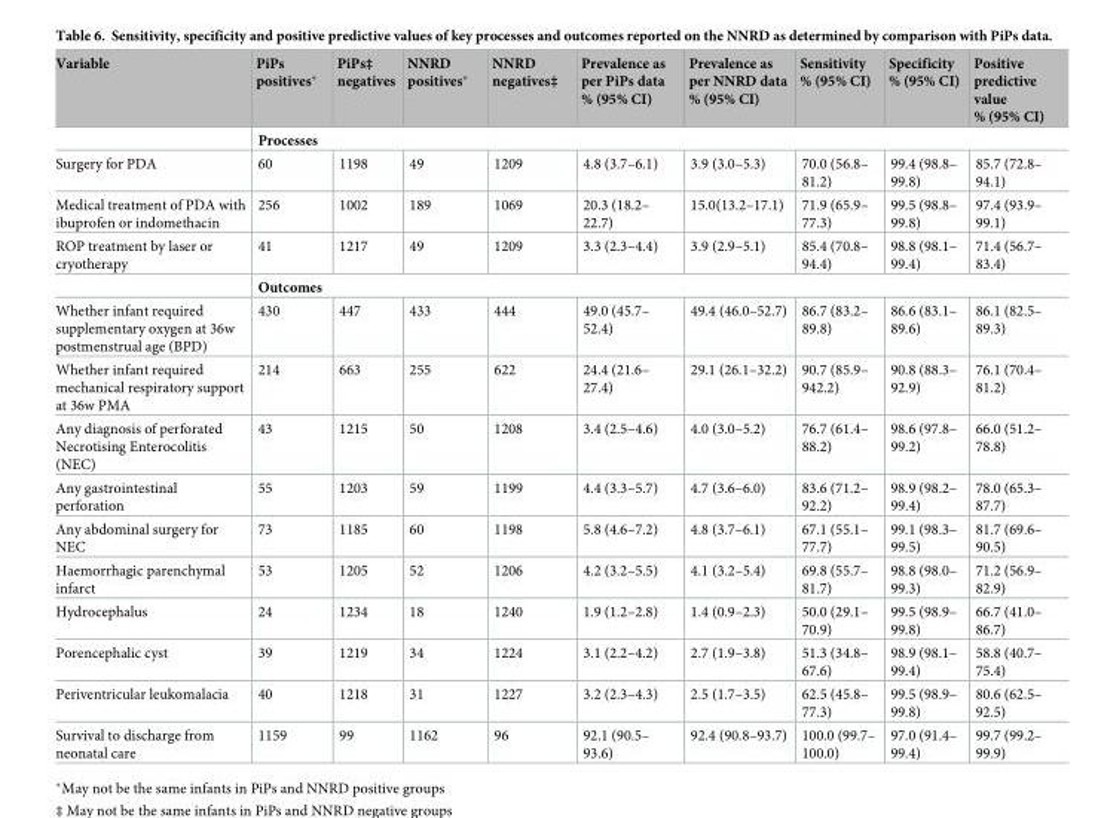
<table><thead><tr><td>Variable</td><td>PiPs positives*</td><td>PiPs‡ negatives</td><td>NNRD positives*</td><td>NNRD negatives‡</td><td>Prevalence as per PiPs data % (95% CI)</td><td>Prevalence as per NNRD data % (95% CI)</td><td>Sensitivity % (95% CI)</td><td>Specificity % (95% CI)</td><td>Positive predictive value % (95% CI)</td></tr></thead><tbody><tr><td></td><td colspan="9">Processes</td></tr><tr><td>Surgery for PDA</td><td>60</td><td>1198</td><td>49</td><td>1209</td><td>4.8 (3.7–6.1)</td><td>3.9 (3.0–5.3)</td><td>70.0 (56.8– 81.2)</td><td>99.4 (98.8– 99.8)</td><td>85.7 (72.8– 94.1)</td></tr><tr><td>Medical treatment of PDA with ibuprofen or indomethacin</td><td>256</td><td>1002</td><td>189</td><td>1069</td><td>20.3 (18.2– 22.7)</td><td>15.0(13.2–17.1)</td><td>71.9 (65.9– 77.3)</td><td>99.5 (98.8– 99.8)</td><td>97.4 (93.9– 99.1)</td></tr><tr><td rowspan="2">ROP treatment by laser or cryotherapy</td><td>41</td><td>1217</td><td>49</td><td>1209</td><td>3.3 (2.3–4.4)</td><td>3.9 (2.9–5.1)</td><td>85.4 (70.8– 94.4)</td><td>98.8 (98.1– 99.4)</td><td>71.4 (56.7– 83.4)</td></tr><tr><td colspan="9">Outcomes</td></tr><tr><td>Whether infant required supplementary oxygen at 36w postmenstrual age (BPD)</td><td>430</td><td>447</td><td>433</td><td>444</td><td>49.0 (45.7– 52.4)</td><td>49.4 (46.0–52.7)</td><td>86.7 (83.2– 89.8)</td><td>86.6 (83.1– 89.6)</td><td>86.1 (82.5– 89.3)</td></tr><tr><td>Whether infant required mechanical respiratory support at 36w PMA</td><td>214</td><td>663</td><td>255</td><td>622</td><td>24.4 (21.6– 27.4)</td><td>29.1 (26.1–32.2)</td><td>90.7 (85.9– 942.2)</td><td>90.8 (88.3– 92.9)</td><td>76.1 (70.4– 81.2)</td></tr><tr><td>Any diagnosis of perforated Necrotising Enterocolitis (NEC)</td><td>43</td><td>1215</td><td>50</td><td>1208</td><td>3.4 (2.5–4.6)</td><td>4.0 (3.0–5.2)</td><td>76.7 (61.4– 88.2)</td><td>98.6 (97.8– 99.2)</td><td>66.0 (51.2– 78.8)</td></tr><tr><td>Any gastrointestinal perforation</td><td>55</td><td>1203</td><td>59</td><td>1199</td><td>4.4 (3.3–5.7)</td><td>4.7 (3.6–6.0)</td><td>83.6 (71.2– 92.2)</td><td>98.9 (98.2– 99.4)</td><td>78.0 (65.3– 87.7)</td></tr><tr><td>Any abdominal surgery for NEC</td><td>73</td><td>1185</td><td>60</td><td>1198</td><td>5.8 (4.6–7.2)</td><td>4.8 (3.7–6.1)</td><td>67.1 (55.1– 77.7)</td><td>99.1 (98.3– 99.5)</td><td>81.7 (69.6– 90.5)</td></tr><tr><td>Haemorrhagic parenchymal infarct</td><td>53</td><td>1205</td><td>52</td><td>1206</td><td>4.2 (3.2–5.5)</td><td>4.1 (3.2–5.4)</td><td>69.8 (55.7– 81.7)</td><td>98.8 (98.0– 99.3)</td><td>71.2 (56.9– 82.9)</td></tr><tr><td>Hydrocephalus</td><td>24</td><td>1234</td><td>18</td><td>1240</td><td>1.9 (1.2–2.8)</td><td>1.4 (0.9–2.3)</td><td>50.0 (29.1– 70.9)</td><td>99.5 (98.9– 99.8)</td><td>66.7 (41.0– 86.7)</td></tr><tr><td>Porencephalic cyst</td><td>39</td><td>1219</td><td>34</td><td>1224</td><td>3.1 (2.2–4.2)</td><td>2.7 (1.9–3.8)</td><td>51.3 (34.8– 67.6)</td><td>98.9 (98.1– 99.4)</td><td>58.8 (40.7– 75.4)</td></tr><tr><td>Periventricular leukomalacia</td><td>40</td><td>1218</td><td>31</td><td>1227</td><td>3.2 (2.3–4.3)</td><td>2.5 (1.7–3.5)</td><td>62.5 (45.8– 77.3)</td><td>99.5 (98.9– 99.8)</td><td>80.6 (62.5– 92.5)</td></tr><tr><td>Survival to discharge from neonatal care</td><td>1159</td><td>99</td><td>1162</td><td>96</td><td>92.1 (90.5– 93.6)</td><td>92.4 (90.8–93.7)</td><td>100.0 (99.7– 100.0)</td><td>97.0 (91.4– 99.4)</td><td>99.7 (99.2– 99.9)</td></tr></tbody></table>